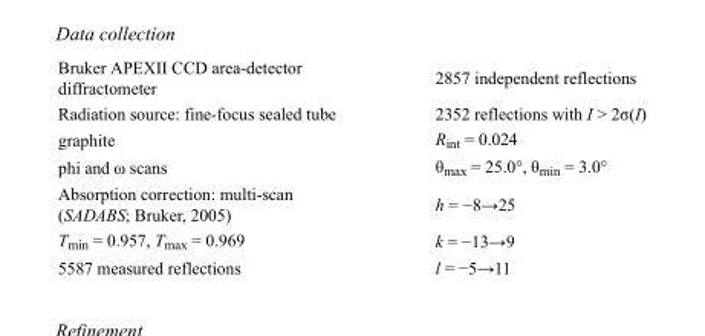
<table><tbody><tr><td>Bruker APEXII CCD area-detector diffractometer</td><td>2857 independent reflections</td></tr><tr><td>Radiation source: fine-focus sealed tube</td><td>2352 reflections with I &gt; 2σ(I)</td></tr><tr><td>graphite</td><td>R<sub>int</sub> = 0.024</td></tr><tr><td>phi and ω scans</td><td>θ<sub>max</sub> = 25.0°, θ<sub>min</sub> = 3.0°</td></tr><tr><td>Absorption correction: multi-scan (SADABS; Bruker, 2005)</td><td>h = −8→25</td></tr><tr><td>T<sub>min</sub> = 0.957, T<sub>max</sub> = 0.969</td><td>k = −13→9</td></tr><tr><td>5587 measured reflections</td><td>l = −5→11</td></tr></tbody></table>